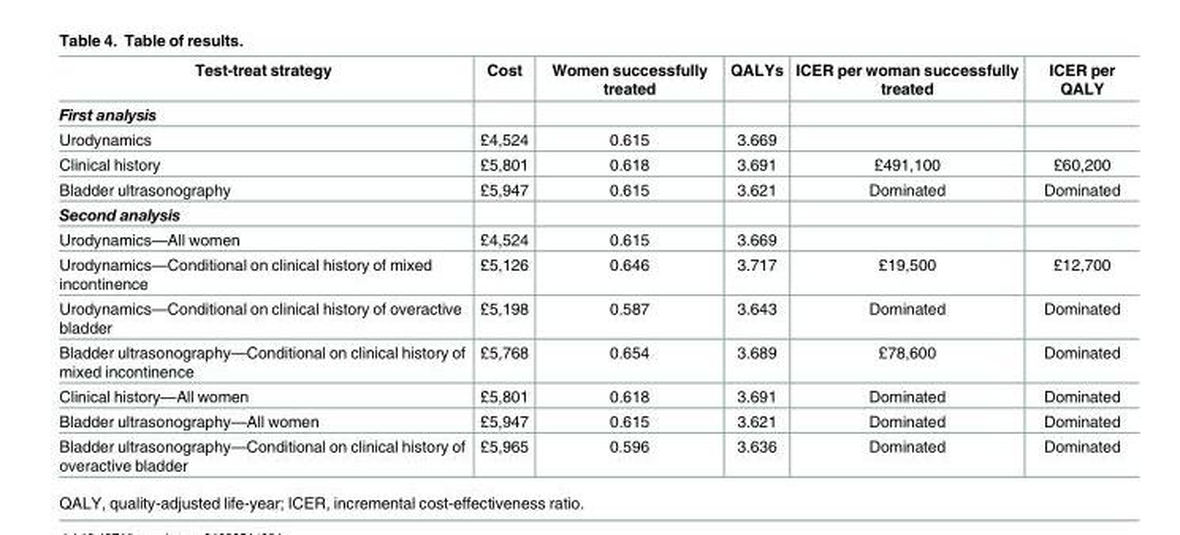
<table><thead><tr><td>Test-treat strategy</td><td>Cost</td><td>Women successfully treated</td><td>QALYs</td><td>ICER per woman successfully treated</td><td>ICER per QALY</td></tr></thead><tbody><tr><td colspan="6">First analysis</td></tr><tr><td>Urodynamics</td><td>£4,524</td><td>0.615</td><td>3.669</td><td></td><td></td></tr><tr><td>Clinical history</td><td>£5,801</td><td>0.618</td><td>3.691</td><td>£491,100</td><td>£60,200</td></tr><tr><td>Bladder ultrasonography</td><td>£5,947</td><td>0.615</td><td>3.621</td><td>Dominated</td><td>Dominated</td></tr><tr><td colspan="6">Second analysis</td></tr><tr><td>Urodynamics—All women</td><td>£4,524</td><td>0.615</td><td>3.669</td><td></td><td></td></tr><tr><td>Urodynamics—Conditional on clinical history of mixed incontinence</td><td>£5,126</td><td>0.646</td><td>3.717</td><td>£19,500</td><td>£12,700</td></tr><tr><td>Urodynamics—Conditional on clinical history of overactive bladder</td><td>£5,198</td><td>0.587</td><td>3.643</td><td>Dominated</td><td>Dominated</td></tr><tr><td>Bladder ultrasonography—Conditional on clinical history of mixed incontinence</td><td>£5,768</td><td>0.654</td><td>3.689</td><td>£78,600</td><td>Dominated</td></tr><tr><td>Clinical history—All women</td><td>£5,801</td><td>0.618</td><td>3.691</td><td>Dominated</td><td>Dominated</td></tr><tr><td>Bladder ultrasonography—All women</td><td>£5,947</td><td>0.615</td><td>3.621</td><td>Dominated</td><td>Dominated</td></tr><tr><td>Bladder ultrasonography—Conditional on clinical history of overactive bladder</td><td>£5,965</td><td>0.596</td><td>3.636</td><td>Dominated</td><td>Dominated</td></tr></tbody></table>